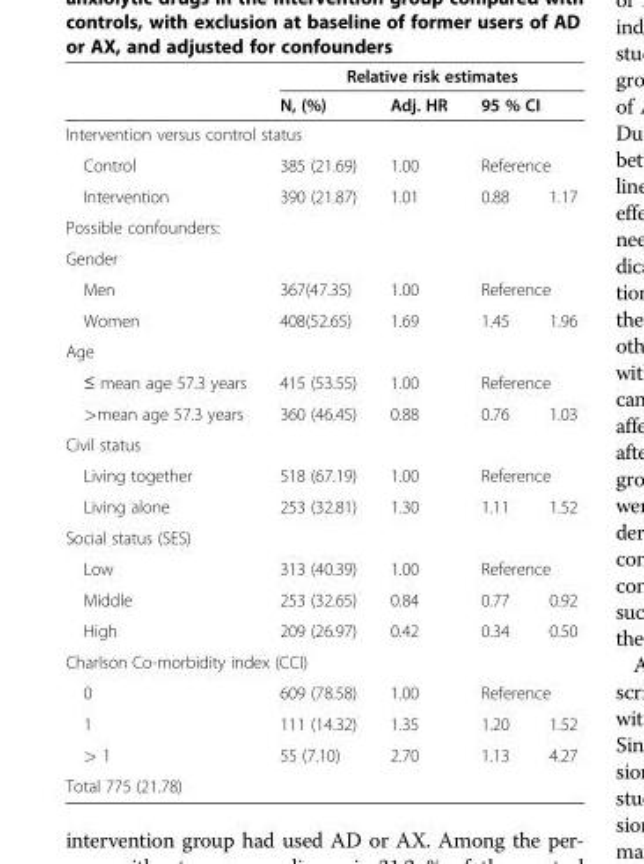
<table><thead><tr><td rowspan="2"></td><td colspan="4">Relative risk estimates</td></tr><tr><td>N, (%)</td><td>Adj. HR</td><td colspan="2">95 % CI</td></tr><tr><td colspan="5">Intervention versus control status</td></tr><tr><td rowspan="2">Control Intervention</td><td rowspan="2">385 (21.69) 390 (21.87)</td><td rowspan="2">1.00 1.01</td><td colspan="2">Reference</td></tr><tr><td>0.88</td><td>1.17</td></tr></thead><tbody><tr><td colspan="5">Possible confounders:</td></tr><tr><td colspan="5">Gender</td></tr><tr><td>Men</td><td>367(47.35)</td><td>1.00</td><td colspan="2">Reference</td></tr><tr><td>Women</td><td>408(52.65)</td><td>1.69</td><td>1.45</td><td>1.96</td></tr><tr><td colspan="5">Age</td></tr><tr><td>≤ mean age 57.3 years</td><td>415 (53.55)</td><td>1.00</td><td colspan="2">Reference</td></tr><tr><td>&gt;mean age 57.3 years</td><td>360 (46.45)</td><td>0.88</td><td>0.76</td><td>1.03</td></tr><tr><td colspan="5">Civil status</td></tr><tr><td>Living together</td><td>518 (67.19)</td><td>1.00</td><td colspan="2">Reference</td></tr><tr><td>Living alone</td><td>253 (32.81)</td><td>1.30</td><td>1.11</td><td>1.52</td></tr><tr><td colspan="5">Social status (SES)</td></tr><tr><td>Low</td><td>313 (40.39)</td><td>1.00</td><td colspan="2">Reference</td></tr><tr><td>Middle</td><td>253 (32.65)</td><td>0.84</td><td>0.77</td><td>0.92</td></tr><tr><td>High</td><td>209 (26.97)</td><td>0.42</td><td>0.34</td><td>0.50</td></tr><tr><td colspan="5">Charlson Co-morbidity index (CCI)</td></tr><tr><td>0</td><td>609 (78.58)</td><td>1.00</td><td colspan="2">Reference</td></tr><tr><td>1</td><td>111 (14.32)</td><td>1.35</td><td>1.20</td><td>1.52</td></tr><tr><td>&gt; 1</td><td>55 (7.10)</td><td>2.70</td><td>1.13</td><td>4.27</td></tr><tr><td colspan="5">Total 775 (21.78)</td></tr></tbody></table>